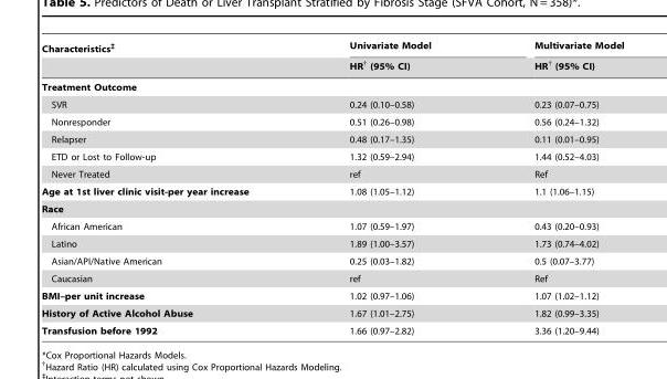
<table><thead><tr><td rowspan="2">Characteristics‡</td><td rowspan="2">Univariate Model HR† (95% CI)</td><td rowspan="2">Multivariate Model HR† (95% CI)</td></tr><tr></tr></thead><tbody><tr><td colspan="3">Treatment Outcome</td></tr><tr><td>SVR</td><td>0.24 (0.10–0.58)</td><td>0.23 (0.07–0.75)</td></tr><tr><td>Nonresponder</td><td>0.51 (0.26–0.98)</td><td>0.56 (0.24–1.32)</td></tr><tr><td>Relapser</td><td>0.48 (0.17–1.35)</td><td>0.11 (0.01–0.95)</td></tr><tr><td>ETD or Lost to Follow-up</td><td>1.32 (0.59–2.94)</td><td>1.44 (0.52–4.03)</td></tr><tr><td>Never Treated</td><td>ref</td><td>Ref</td></tr><tr><td>Age at 1st liver clinic visit-per year increase</td><td>1.08 (1.05–1.12)</td><td>1.1 (1.06–1.15)</td></tr><tr><td colspan="3">Race</td></tr><tr><td>African American</td><td>1.07 (0.59–1.97)</td><td>0.43 (0.20–0.93)</td></tr><tr><td>Latino</td><td>1.89 (1.00–3.57)</td><td>1.73 (0.74–4.02)</td></tr><tr><td>Asian/API/Native American</td><td>0.25 (0.03–1.82)</td><td>0.5 (0.07–3.77)</td></tr><tr><td>Caucasian</td><td>ref</td><td>Ref</td></tr><tr><td>BMI–per unit increase</td><td>1.02 (0.97–1.06)</td><td>1.07 (1.02–1.12)</td></tr><tr><td>History of Active Alcohol Abuse</td><td>1.67 (1.01–2.75)</td><td>1.82 (0.99–3.35)</td></tr><tr><td>Transfusion before 1992</td><td>1.66 (0.97–2.82)</td><td>3.36 (1.20–9.44)</td></tr></tbody></table>